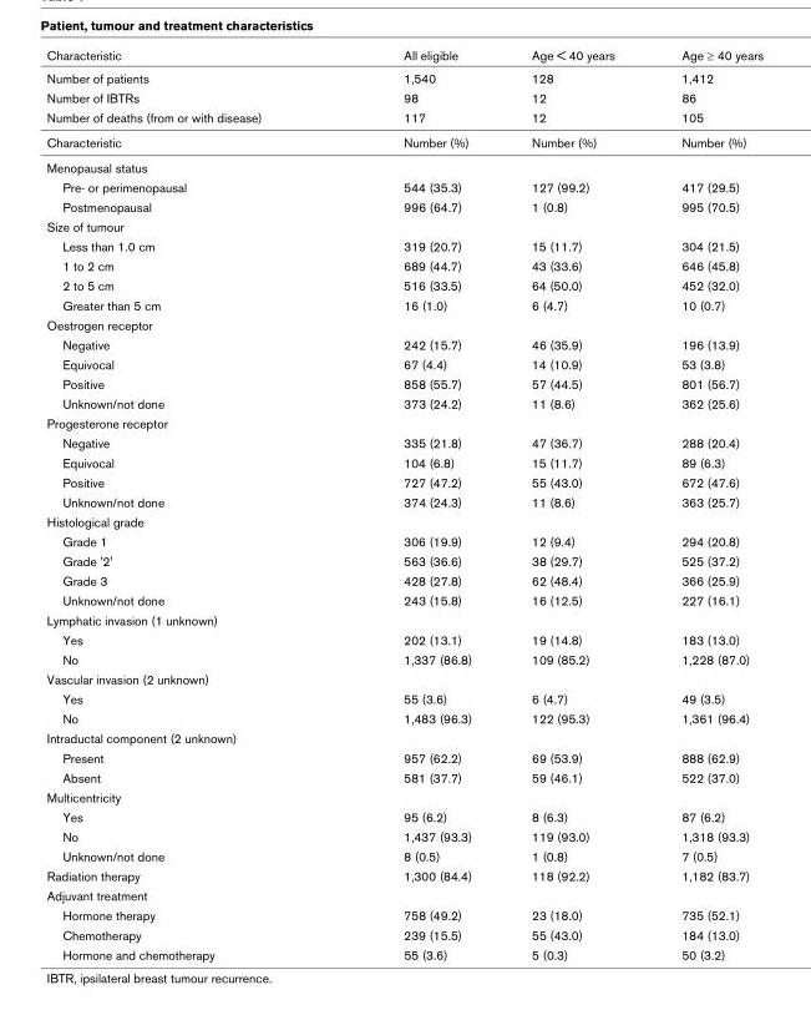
<table><thead><tr><td>Characteristic</td><td>All eligible</td><td>Age &lt; 40 years</td><td>Age ≥ 40 years</td></tr></thead><tbody><tr><td>Number of patients</td><td>1,540</td><td>128</td><td>1,412</td></tr><tr><td>Number of IBTRs</td><td>98</td><td>12</td><td>86</td></tr><tr><td>Number of deaths (from or with disease)</td><td>117</td><td>12</td><td>105</td></tr><tr><td>Characteristic</td><td>Number (%)</td><td>Number (%)</td><td>Number (%)</td></tr><tr><td colspan="4">Menopausal status</td></tr><tr><td>Pre- or perimenopausal</td><td>544 (35.3)</td><td>127 (99.2)</td><td>417 (29.5)</td></tr><tr><td>Postmenopausal</td><td>996 (64.7)</td><td>1 (0.8)</td><td>995 (70.5)</td></tr><tr><td colspan="4">Size of tumour</td></tr><tr><td>Less than 1.0 cm</td><td>319 (20.7)</td><td>15 (11.7)</td><td>304 (21.5)</td></tr><tr><td>1 to 2 cm</td><td>689 (44.7)</td><td>43 (33.6)</td><td>646 (45.8)</td></tr><tr><td>2 to 5 cm</td><td>516 (33.5)</td><td>64 (50.0)</td><td>452 (32.0)</td></tr><tr><td>Greater than 5 cm</td><td>16 (1.0)</td><td>6 (4.7)</td><td>10 (0.7)</td></tr><tr><td colspan="4">Oestrogen receptor</td></tr><tr><td>Negative</td><td>242 (15.7)</td><td>46 (35.9)</td><td>196 (13.9)</td></tr><tr><td>Equivocal</td><td>67 (4.4)</td><td>14 (10.9)</td><td>53 (3.8)</td></tr><tr><td>Positive</td><td>858 (55.7)</td><td>57 (44.5)</td><td>801 (56.7)</td></tr><tr><td>Unknown/not done</td><td>373 (24.2)</td><td>11 (8.6)</td><td>362 (25.6)</td></tr><tr><td colspan="4">Progesterone receptor</td></tr><tr><td>Negative</td><td>335 (21.8)</td><td>47 (36.7)</td><td>288 (20.4)</td></tr><tr><td>Equivocal</td><td>104 (6.8)</td><td>15 (11.7)</td><td>89 (6.3)</td></tr><tr><td>Positive</td><td>727 (47.2)</td><td>55 (43.0)</td><td>672 (47.6)</td></tr><tr><td>Unknown/not done</td><td>374 (24.3)</td><td>11 (8.6)</td><td>363 (25.7)</td></tr><tr><td colspan="4">Histological grade</td></tr><tr><td>Grade 1</td><td>306 (19.9)</td><td>12 (9.4)</td><td>294 (20.8)</td></tr><tr><td>Grade &#x27;2&#x27;</td><td>563 (36.6)</td><td>38 (29.7)</td><td>525 (37.2)</td></tr><tr><td>Grade 3</td><td>428 (27.8)</td><td>62 (48.4)</td><td>366 (25.9)</td></tr><tr><td>Unknown/not done</td><td>243 (15.8)</td><td>16 (12.5)</td><td>227 (16.1)</td></tr><tr><td colspan="4">Lymphatic invasion (1 unknown)</td></tr><tr><td>Yes</td><td>202 (13.1)</td><td>19 (14.8)</td><td>183 (13.0)</td></tr><tr><td>No</td><td>1,337 (86.8)</td><td>109 (85.2)</td><td>1,228 (87.0)</td></tr><tr><td colspan="4">Vascular invasion (2 unknown)</td></tr><tr><td>Yes</td><td>55 (3.6)</td><td>6 (4.7)</td><td>49 (3.5)</td></tr><tr><td>No</td><td>1,483 (96.3)</td><td>122 (95.3)</td><td>1,361 (96.4)</td></tr><tr><td colspan="4">Intraductal component (2 unknown)</td></tr><tr><td>Present</td><td>957 (62.2)</td><td>69 (53.9)</td><td>888 (62.9)</td></tr><tr><td>Absent</td><td>581 (37.7)</td><td>59 (46.1)</td><td>522 (37.0)</td></tr><tr><td colspan="4">Multicentricity</td></tr><tr><td>Yes</td><td>95 (6.2)</td><td>8 (6.3)</td><td>87 (6.2)</td></tr><tr><td>No</td><td>1,437 (93.3)</td><td>119 (93.0)</td><td>1,318 (93.3)</td></tr><tr><td>Unknown/not done</td><td>8 (0.5)</td><td>1 (0.8)</td><td>7 (0.5)</td></tr><tr><td>Radiation therapy</td><td>1,300 (84.4)</td><td>118 (92.2)</td><td>1,182 (83.7)</td></tr><tr><td colspan="4">Adjuvant treatment</td></tr><tr><td>Hormone therapy</td><td>758 (49.2)</td><td>23 (18.0)</td><td>735 (52.1)</td></tr><tr><td>Chemotherapy</td><td>239 (15.5)</td><td>55 (43.0)</td><td>184 (13.0)</td></tr><tr><td>Hormone and chemotherapy</td><td>55 (3.6)</td><td>5 (0.3)</td><td>50 (3.2)</td></tr></tbody></table>